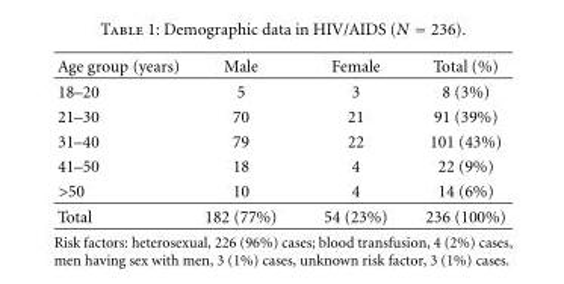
<table><thead><tr><td>Age group (years)</td><td>Male</td><td>Female</td><td>Total (%)</td></tr></thead><tbody><tr><td>18–20</td><td>5</td><td>3</td><td>8 (3%)</td></tr><tr><td>21–30</td><td>70</td><td>21</td><td>91 (39%)</td></tr><tr><td>31–40</td><td>79</td><td>22</td><td>101 (43%)</td></tr><tr><td>41–50</td><td>18</td><td>4</td><td>22 (9%)</td></tr><tr><td>&gt;50</td><td>10</td><td>4</td><td>14 (6%)</td></tr><tr><td>Total</td><td>182 (77%)</td><td>54 (23%)</td><td>236 (100%)</td></tr></tbody></table>